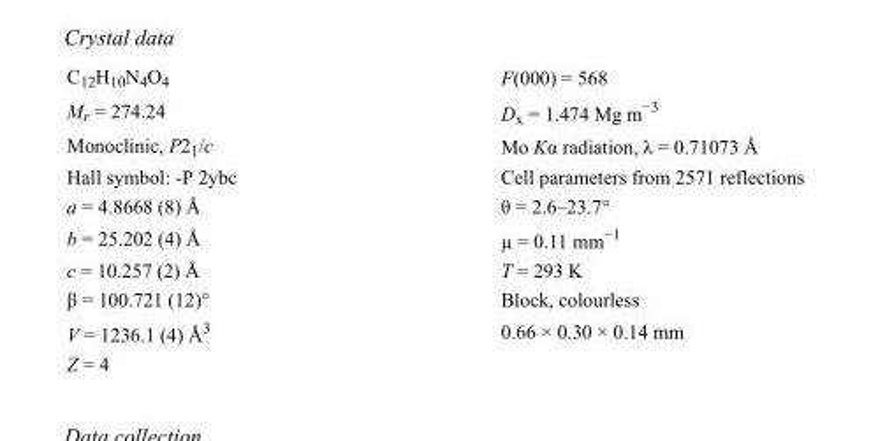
<table><tbody><tr><td>C<sub>12</sub>H<sub>10</sub>N<sub>4</sub>O<sub>4</sub></td><td>F(000) = 568</td></tr><tr><td>M<sub>r</sub> = 274.24</td><td>D<sub>x</sub> = 1.474 Mg m<sup>−3</sup></td></tr><tr><td>Monoclinic, P2<sub>1</sub>/c</td><td>Mo Kα radiation, λ = 0.71073 Å</td></tr><tr><td>Hall symbol: -P 2ybc</td><td>Cell parameters from 2571 reflections</td></tr><tr><td>a = 4.8668 (8) Å</td><td>θ = 2.6–23.7°</td></tr><tr><td>b = 25.202 (4) Å</td><td>µ = 0.11 mm<sup>−1</sup></td></tr><tr><td>c = 10.257 (2) Å</td><td>T = 293 K</td></tr><tr><td>β = 100.721 (12)°</td><td>Block, colourless</td></tr><tr><td>V = 1236.1 (4) Å<sup>3</sup></td><td>0.66 × 0.30 × 0.14 mm</td></tr><tr><td>Z = 4</td><td></td></tr></tbody></table>